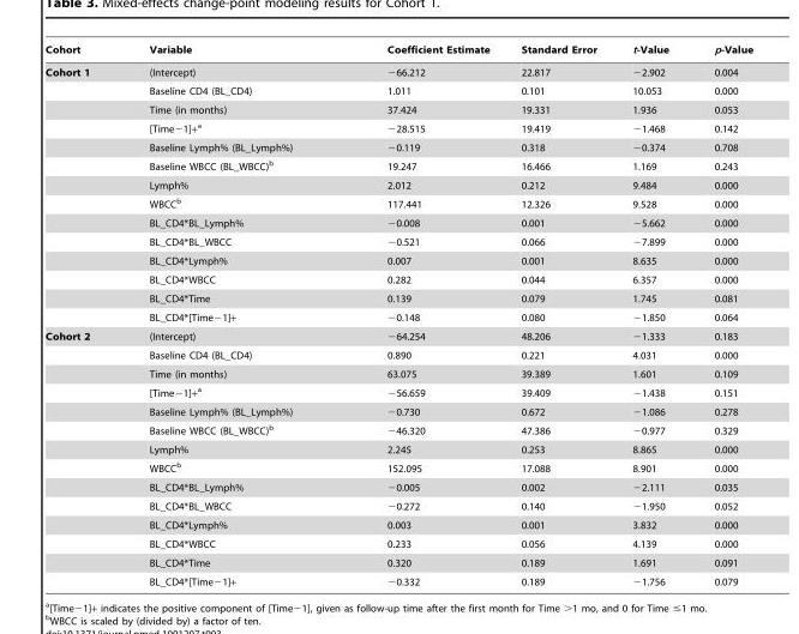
<table><thead><tr><td>Cohort</td><td>Variable</td><td>Coefficient Estimate</td><td>Standard Error</td><td>t-Value</td><td>p-Value</td></tr></thead><tbody><tr><td rowspan="14">Cohort 1</td><td>(Intercept)</td><td>−66.212</td><td>22.817</td><td>−2.902</td><td>0.004</td></tr><tr><td>Baseline CD4 (BL_CD4)</td><td>1.011</td><td>0.101</td><td>10.053</td><td>0.000</td></tr><tr><td>Time (in months)</td><td>37.424</td><td>19.331</td><td>1.936</td><td>0.053</td></tr><tr><td>[Time−1]+<sup>a</sup></td><td>−28.515</td><td>19.419</td><td>−1.468</td><td>0.142</td></tr><tr><td>Baseline Lymph% (BL_Lymph%)</td><td>−0.119</td><td>0.318</td><td>−0.374</td><td>0.708</td></tr><tr><td>Baseline WBCC (BL_WBCC)<sup>b</sup></td><td>19.247</td><td>16.466</td><td>1.169</td><td>0.243</td></tr><tr><td>Lymph%</td><td>2.012</td><td>0.212</td><td>9.484</td><td>0.000</td></tr><tr><td>WBCC<sup>b</sup></td><td>117.441</td><td>12.326</td><td>9.528</td><td>0.000</td></tr><tr><td>BL_CD4*BL_Lymph%</td><td>−0.008</td><td>0.001</td><td>−5.662</td><td>0.000</td></tr><tr><td>BL_CD4*BL_WBCC</td><td>−0.521</td><td>0.066</td><td>−7.899</td><td>0.000</td></tr><tr><td>BL_CD4*Lymph%</td><td>0.007</td><td>0.001</td><td>8.635</td><td>0.000</td></tr><tr><td>BL_CD4*WBCC</td><td>0.282</td><td>0.044</td><td>6.357</td><td>0.000</td></tr><tr><td>BL_CD4*Time</td><td>0.139</td><td>0.079</td><td>1.745</td><td>0.081</td></tr><tr><td>BL_CD4*[Time−1]+</td><td>−0.148</td><td>0.080</td><td>−1.850</td><td>0.064</td></tr><tr><td rowspan="14">Cohort 2</td><td>(Intercept)</td><td>−64.254</td><td>48.206</td><td>−1.333</td><td>0.183</td></tr><tr><td>Baseline CD4 (BL_CD4)</td><td>0.890</td><td>0.221</td><td>4.031</td><td>0.000</td></tr><tr><td>Time (in months)</td><td>63.075</td><td>39.389</td><td>1.601</td><td>0.109</td></tr><tr><td>[Time−1]+<sup>a</sup></td><td>−56.659</td><td>39.409</td><td>−1.438</td><td>0.151</td></tr><tr><td>Baseline Lymph% (BL_Lymph%)</td><td>−0.730</td><td>0.672</td><td>−1.086</td><td>0.278</td></tr><tr><td>Baseline WBCC (BL_WBCC)<sup>b</sup></td><td>−46.320</td><td>47.386</td><td>−0.977</td><td>0.329</td></tr><tr><td>Lymph%</td><td>2.245</td><td>0.253</td><td>8.865</td><td>0.000</td></tr><tr><td>WBCC<sup>b</sup></td><td>152.095</td><td>17.088</td><td>8.901</td><td>0.000</td></tr><tr><td>BL_CD4*BL_Lymph%</td><td>−0.005</td><td>0.002</td><td>−2.111</td><td>0.035</td></tr><tr><td>BL_CD4*BL_WBCC</td><td>−0.272</td><td>0.140</td><td>−1.950</td><td>0.052</td></tr><tr><td>BL_CD4*Lymph%</td><td>0.003</td><td>0.001</td><td>3.832</td><td>0.000</td></tr><tr><td>BL_CD4*WBCC</td><td>0.233</td><td>0.056</td><td>4.139</td><td>0.000</td></tr><tr><td>BL_CD4*Time</td><td>0.320</td><td>0.189</td><td>1.691</td><td>0.091</td></tr><tr><td>BL_CD4*[Time−1]+</td><td>−0.332</td><td>0.189</td><td>−1.756</td><td>0.079</td></tr></tbody></table>